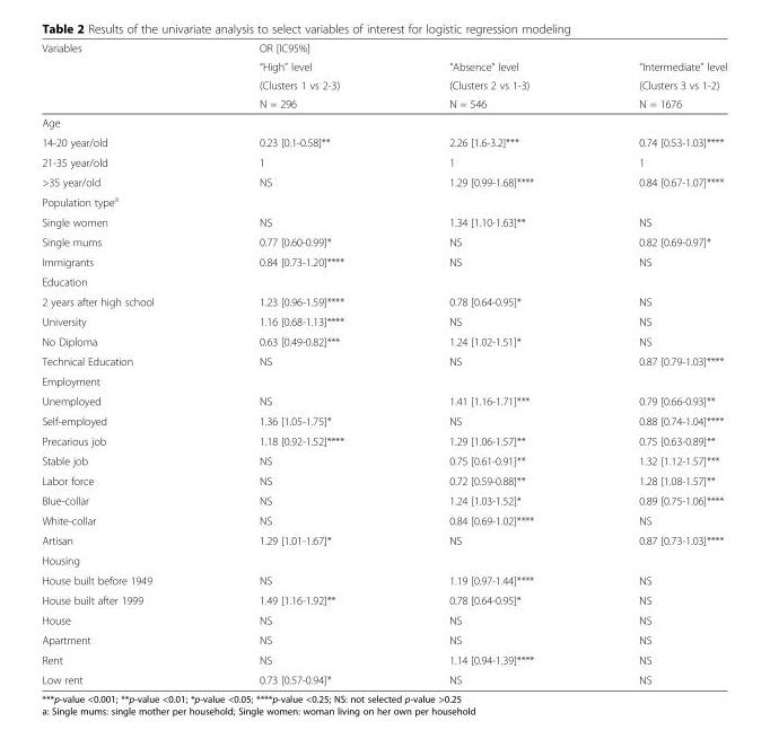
<table><thead><tr><td rowspan="4">Variables</td><td colspan="3">OR [IC95%]</td></tr><tr><td rowspan="3">“High” level (Clusters 1 vs 2-3) N = 296</td><td rowspan="3">“Absence” level (Clusters 2 vs 1-3) N = 546</td><td rowspan="3">“Intermediate” level (Clusters 3 vs 1-2) N = 1676</td></tr><tr></tr><tr></tr></thead><tbody><tr><td colspan="4">Age</td></tr><tr><td>14-20 year/old</td><td>0.23 [0.1-0.58]**</td><td>2.26 [1.6-3.2]***</td><td>0.74 [0.53-1.03]****</td></tr><tr><td>21-35 year/old</td><td>1</td><td>1</td><td>1</td></tr><tr><td>&gt;35 year/old</td><td>NS</td><td>1.29 [0.99-1.68]****</td><td>0.84 [0.67-1.07]****</td></tr><tr><td colspan="4">Population type<sup>a</sup></td></tr><tr><td>Single women</td><td>NS</td><td>1.34 [1.10-1.63]**</td><td>NS</td></tr><tr><td>Single mums</td><td>0.77 [0.60-0.99]*</td><td>NS</td><td>0.82 [0.69-0.97]*</td></tr><tr><td>Immigrants</td><td>0.84 [0.73-1.20]****</td><td>NS</td><td>NS</td></tr><tr><td colspan="4">Education</td></tr><tr><td>2 years after high school</td><td>1.23 [0.96-1.59]****</td><td>0.78 [0.64-0.95]*</td><td>NS</td></tr><tr><td>University</td><td>1.16 [0.68-1.13]****</td><td>NS</td><td>NS</td></tr><tr><td>No Diploma</td><td>0.63 [0.49-0.82]***</td><td>1.24 [1.02-1.51]*</td><td>NS</td></tr><tr><td>Technical Education</td><td>NS</td><td>NS</td><td>0.87 [0.79-1.03]****</td></tr><tr><td colspan="4">Employment</td></tr><tr><td>Unemployed</td><td>NS</td><td>1.41 [1.16-1.71]***</td><td>0.79 [0.66-0.93]**</td></tr><tr><td>Self-employed</td><td>1.36 [1.05-1.75]*</td><td>NS</td><td>0.88 [0.74-1.04]****</td></tr><tr><td>Precarious job</td><td>1.18 [0.92-1.52]****</td><td>1.29 [1.06-1.57]**</td><td>0.75 [0.63-0.89]**</td></tr><tr><td>Stable job</td><td>NS</td><td>0.75 [0.61-0.91]**</td><td>1.32 [1.12-1.57]***</td></tr><tr><td>Labor force</td><td>NS</td><td>0.72 [0.59-0.88]**</td><td>1.28 [1.08-1.57]**</td></tr><tr><td>Blue-collar</td><td>NS</td><td>1.24 [1.03-1.52]*</td><td>0.89 [0.75-1.06]****</td></tr><tr><td>White-collar</td><td>NS</td><td>0.84 [0.69-1.02]****</td><td>NS</td></tr><tr><td>Artisan</td><td>1.29 [1.01-1.67]*</td><td>NS</td><td>0.87 [0.73-1.03]****</td></tr><tr><td colspan="4">Housing</td></tr><tr><td>House built before 1949</td><td>NS</td><td>1.19 [0.97-1.44]****</td><td>NS</td></tr><tr><td>House built after 1999</td><td>1.49 [1.16-1.92]**</td><td>0.78 [0.64-0.95]*</td><td>NS</td></tr><tr><td>House</td><td>NS</td><td>NS</td><td>NS</td></tr><tr><td>Apartment</td><td>NS</td><td>NS</td><td>NS</td></tr><tr><td>Rent</td><td>NS</td><td>1.14 [0.94-1.39]****</td><td>NS</td></tr><tr><td>Low rent</td><td>0.73 [0.57-0.94]*</td><td>NS</td><td>NS</td></tr></tbody></table>